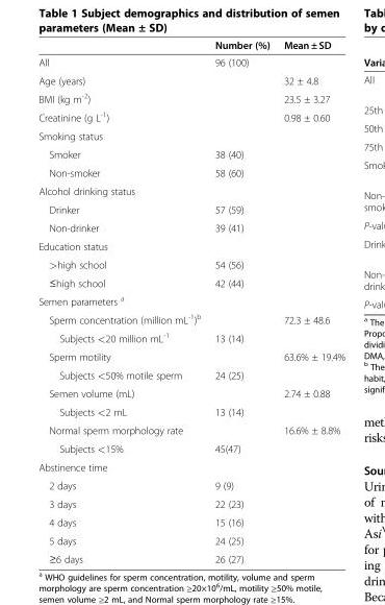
<table><thead><tr><td></td><td>Number (%)</td><td>Mean ± SD</td></tr></thead><tbody><tr><td>All</td><td>96 (100)</td><td></td></tr><tr><td>Age (years)</td><td></td><td>32 ± 4.8</td></tr><tr><td>BMI (kg m<sup>-2</sup>)</td><td></td><td>23.5 ± 3.27</td></tr><tr><td>Creatinine (g L<sup>-1</sup>)</td><td></td><td>0.98 ± 0.60</td></tr><tr><td colspan="3">Smoking status</td></tr><tr><td>Smoker</td><td>38 (40)</td><td></td></tr><tr><td>Non-smoker</td><td>58 (60)</td><td></td></tr><tr><td colspan="3">Alcohol drinking status</td></tr><tr><td>Drinker</td><td>57 (59)</td><td></td></tr><tr><td>Non-drinker</td><td>39 (41)</td><td></td></tr><tr><td colspan="3">Education status</td></tr><tr><td>&gt;high school</td><td>54 (56)</td><td></td></tr><tr><td>≤high school</td><td>42 (44)</td><td></td></tr><tr><td colspan="3">Semen parameters <sup>a</sup></td></tr><tr><td>Sperm concentration (million mL<sup>-1</sup>)<sup>b</sup></td><td></td><td>72.3 ± 48.6</td></tr><tr><td>Subjects &lt;20 million mL<sup>-1</sup></td><td>13 (14)</td><td></td></tr><tr><td>Sperm motility</td><td></td><td>63.6% ± 19.4%</td></tr><tr><td>Subjects &lt;50% motile sperm</td><td>24 (25)</td><td></td></tr><tr><td>Semen volume (mL)</td><td></td><td>2.74 ± 0.88</td></tr><tr><td>Subjects &lt;2 mL</td><td>13 (14)</td><td></td></tr><tr><td>Normal sperm morphology rate</td><td></td><td>16.6% ± 8.8%</td></tr><tr><td>Subjects &lt;15%</td><td>45(47)</td><td></td></tr><tr><td colspan="3">Abstinence time</td></tr><tr><td>2 days</td><td>9 (9)</td><td></td></tr><tr><td>3 days</td><td>22 (23)</td><td></td></tr><tr><td>4 days</td><td>15 (16)</td><td></td></tr><tr><td>5 days</td><td>24 (25)</td><td></td></tr><tr><td>≥6 days</td><td>26 (27)</td><td></td></tr></tbody></table>